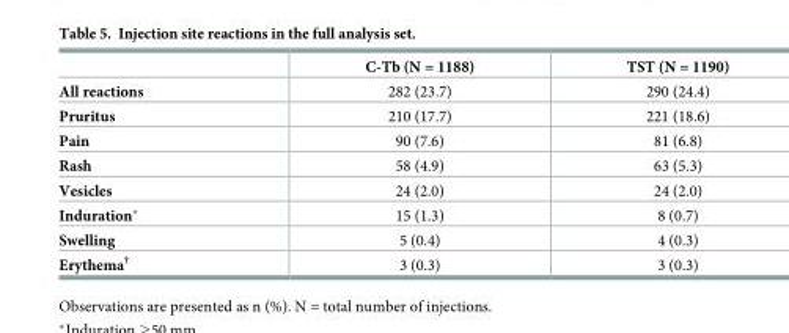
<table><thead><tr><td></td><td>C-Tb (N = 1188)</td><td>TST (N = 1190)</td></tr></thead><tbody><tr><td>All reactions</td><td>282 (23.7)</td><td>290 (24.4)</td></tr><tr><td>Pruritus</td><td>210 (17.7)</td><td>221 (18.6)</td></tr><tr><td>Pain</td><td>90 (7.6)</td><td>81 (6.8)</td></tr><tr><td>Rash</td><td>58 (4.9)</td><td>63 (5.3)</td></tr><tr><td>Vesicles</td><td>24 (2.0)</td><td>24 (2.0)</td></tr><tr><td>Induration*</td><td>15 (1.3)</td><td>8 (0.7)</td></tr><tr><td>Swelling</td><td>5 (0.4)</td><td>4 (0.3)</td></tr><tr><td>Erythema<sup>†</sup></td><td>3 (0.3)</td><td>3 (0.3)</td></tr></tbody></table>